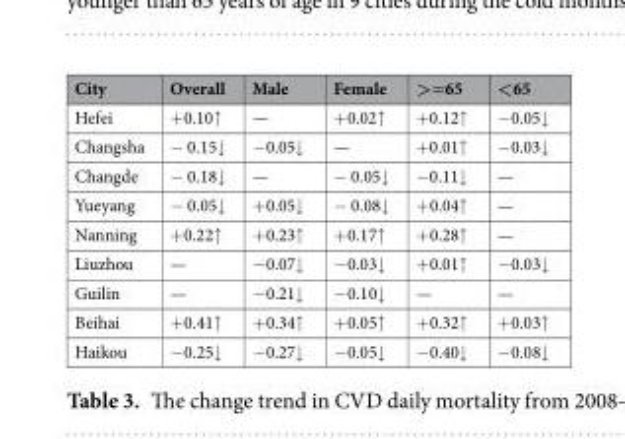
<table><thead><tr><td>City</td><td>Overall</td><td>Male</td><td>Female</td><td>&gt;=65</td><td>&lt;65</td></tr></thead><tbody><tr><td>Hefei</td><td>+0.10↑</td><td>—</td><td>+0.02↑</td><td>+0.12↑</td><td>−0.05↓</td></tr><tr><td>Changsha</td><td>− 0.15↓</td><td>−0.05↓</td><td>—</td><td>+0.01↑</td><td>−0.03↓</td></tr><tr><td>Changde</td><td>− 0.18↓</td><td>—</td><td>− 0.05↓</td><td>−0.11↓</td><td>—</td></tr><tr><td>Yueyang</td><td>− 0.05↓</td><td>+0.05↓</td><td>− 0.08↓</td><td>+0.04↑</td><td>—</td></tr><tr><td>Nanning</td><td>+0.22↑</td><td>+0.23↑</td><td>+0.17↑</td><td>+0.28↑</td><td>—</td></tr><tr><td>Liuzhou</td><td>—</td><td>−0.07↓</td><td>−0.03↓</td><td>+0.01↑</td><td>−0.03↓</td></tr><tr><td>Guilin</td><td>—</td><td>−0.21↓</td><td>−0.10↓</td><td>—</td><td>—</td></tr><tr><td>Beihai</td><td>+0.41↑</td><td>+0.34↑</td><td>+0.05↑</td><td>+0.32↑</td><td>+0.03↑</td></tr><tr><td>Haikou</td><td>−0.25↓</td><td>−0.27↓</td><td>−0.05↓</td><td>−0.40↓</td><td>−0.08↓</td></tr></tbody></table>